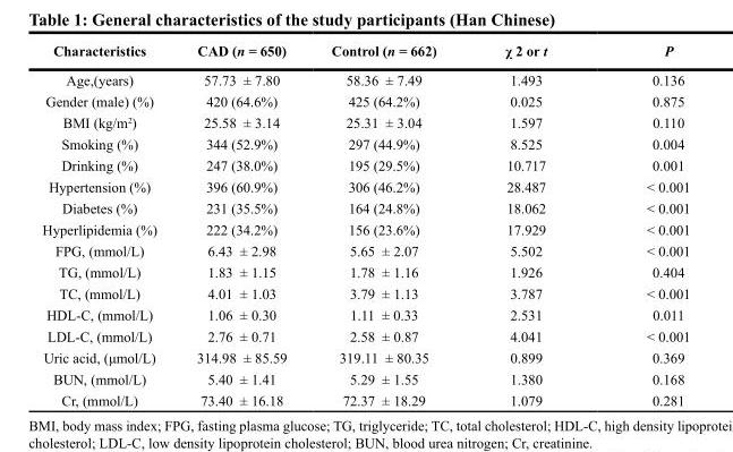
<table><thead><tr><td>Characteristics</td><td>CAD (n = 650)</td><td>Control (n = 662)</td><td>χ 2 or t</td><td>P</td></tr></thead><tbody><tr><td>Age,(years)</td><td>57.73 ± 7.80</td><td>58.36 ± 7.49</td><td>1.493</td><td>0.136</td></tr><tr><td>Gender (male) (%)</td><td>420 (64.6%)</td><td>425 (64.2%)</td><td>0.025</td><td>0.875</td></tr><tr><td>BMI (kg/m<sup>2</sup>)</td><td>25.58 ± 3.14</td><td>25.31 ± 3.04</td><td>1.597</td><td>0.110</td></tr><tr><td>Smoking (%)</td><td>344 (52.9%)</td><td>297 (44.9%)</td><td>8.525</td><td>0.004</td></tr><tr><td>Drinking (%)</td><td>247 (38.0%)</td><td>195 (29.5%)</td><td>10.717</td><td>0.001</td></tr><tr><td>Hypertension (%)</td><td>396 (60.9%)</td><td>306 (46.2%)</td><td>28.487</td><td>&lt; 0.001</td></tr><tr><td>Diabetes (%)</td><td>231 (35.5%)</td><td>164 (24.8%)</td><td>18.062</td><td>&lt; 0.001</td></tr><tr><td>Hyperlipidemia (%)</td><td>222 (34.2%)</td><td>156 (23.6%)</td><td>17.929</td><td>&lt; 0.001</td></tr><tr><td>FPG, (mmol/L)</td><td>6.43 ± 2.98</td><td>5.65 ± 2.07</td><td>5.502</td><td>&lt; 0.001</td></tr><tr><td>TG, (mmol/L)</td><td>1.83 ± 1.15</td><td>1.78 ± 1.16</td><td>1.926</td><td>0.404</td></tr><tr><td>TC, (mmol/L)</td><td>4.01 ± 1.03</td><td>3.79 ± 1.13</td><td>3.787</td><td>&lt; 0.001</td></tr><tr><td>HDL-C, (mmol/L)</td><td>1.06 ± 0.30</td><td>1.11 ± 0.33</td><td>2.531</td><td>0.011</td></tr><tr><td>LDL-C, (mmol/L)</td><td>2.76 ± 0.71</td><td>2.58 ± 0.87</td><td>4.041</td><td>&lt; 0.001</td></tr><tr><td>Uric acid, (μmol/L)</td><td>314.98 ± 85.59</td><td>319.11 ± 80.35</td><td>0.899</td><td>0.369</td></tr><tr><td>BUN, (mmol/L)</td><td>5.40 ± 1.41</td><td>5.29 ± 1.55</td><td>1.380</td><td>0.168</td></tr><tr><td>Cr, (mmol/L)</td><td>73.40 ± 16.18</td><td>72.37 ± 18.29</td><td>1.079</td><td>0.281</td></tr></tbody></table>